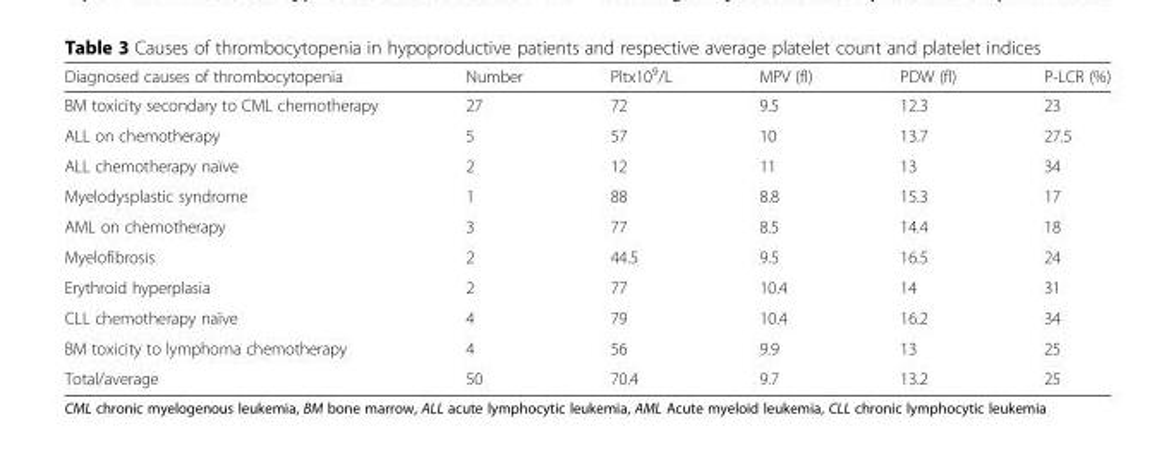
<table><thead><tr><td>Diagnosed causes of thrombocytopenia</td><td>Number</td><td>Pltx10<sup>9</sup>/L</td><td>MPV (fl)</td><td>PDW (fl)</td><td>P-LCR (%)</td></tr></thead><tbody><tr><td>BM toxicity secondary to CML chemotherapy</td><td>27</td><td>72</td><td>9.5</td><td>12.3</td><td>23</td></tr><tr><td>ALL on chemotherapy</td><td>5</td><td>57</td><td>10</td><td>13.7</td><td>27.5</td></tr><tr><td>ALL chemotherapy naïve</td><td>2</td><td>12</td><td>11</td><td>13</td><td>34</td></tr><tr><td>Myelodysplastic syndrome</td><td>1</td><td>88</td><td>8.8</td><td>15.3</td><td>17</td></tr><tr><td>AML on chemotherapy</td><td>3</td><td>77</td><td>8.5</td><td>14.4</td><td>18</td></tr><tr><td>Myelofibrosis</td><td>2</td><td>44.5</td><td>9.5</td><td>16.5</td><td>24</td></tr><tr><td>Erythroid hyperplasia</td><td>2</td><td>77</td><td>10.4</td><td>14</td><td>31</td></tr><tr><td>CLL chemotherapy naïve</td><td>4</td><td>79</td><td>10.4</td><td>16.2</td><td>34</td></tr><tr><td>BM toxicity to lymphoma chemotherapy</td><td>4</td><td>56</td><td>9.9</td><td>13</td><td>25</td></tr><tr><td>Total/average</td><td>50</td><td>70.4</td><td>9.7</td><td>13.2</td><td>25</td></tr></tbody></table>